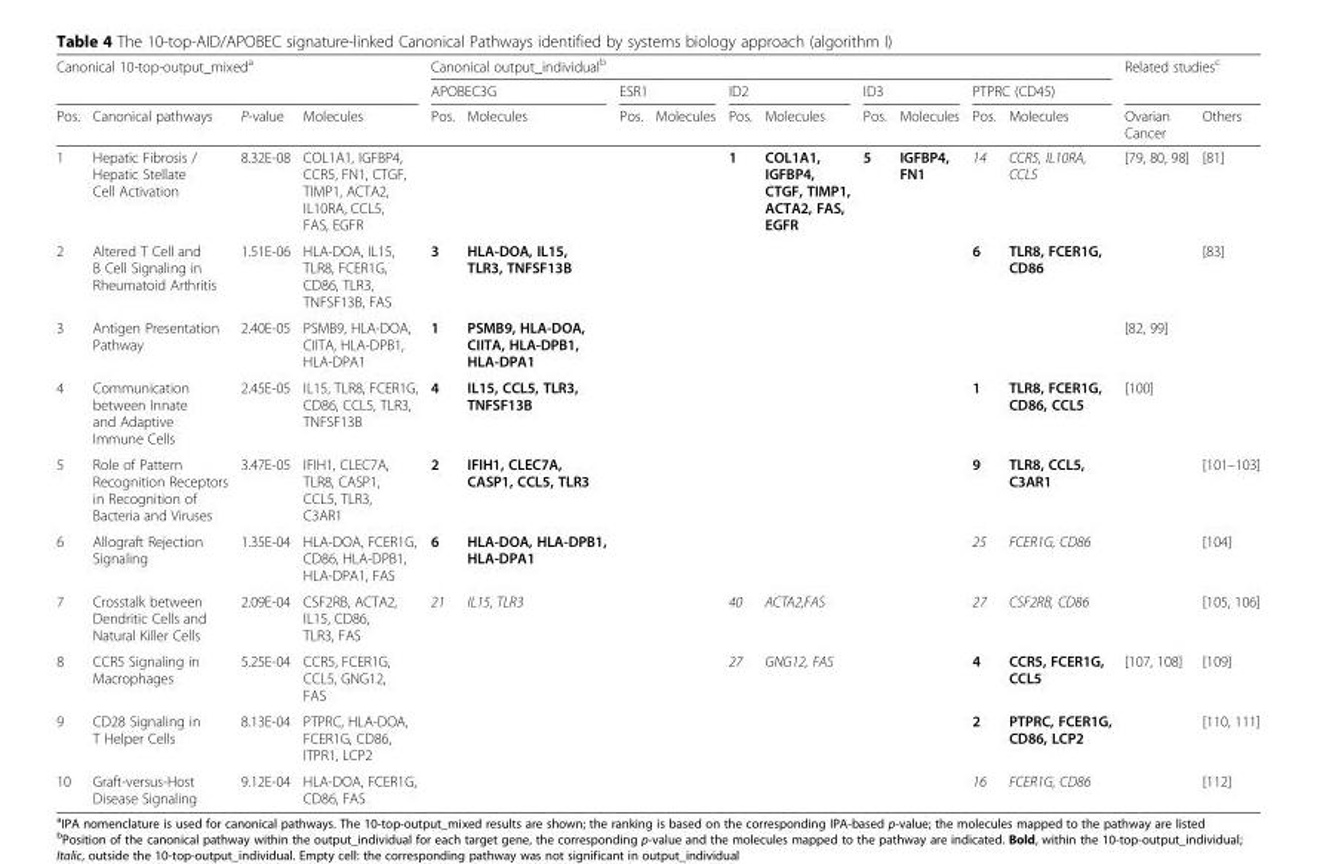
<table><thead><tr><td rowspan="2" colspan="4">Canonical 10-top-output_mixed<sup>a</sup></td><td colspan="10">Canonical output_individual<sup>b</sup></td><td rowspan="2" colspan="2">Related studies<sup>c</sup></td></tr><tr><td colspan="2">APOBEC3G</td><td colspan="2">ESR1</td><td colspan="2">ID2</td><td colspan="2">ID3</td><td colspan="2">PTPRC (CD45)</td></tr><tr><td>Pos.</td><td>Canonical pathways</td><td>P-value</td><td>Molecules</td><td>Pos.</td><td>Molecules</td><td>Pos.</td><td>Molecules</td><td>Pos.</td><td>Molecules</td><td>Pos.</td><td>Molecules</td><td>Pos.</td><td>Molecules</td><td>Ovarian Cancer</td><td>Others</td></tr></thead><tbody><tr><td>1</td><td>Hepatic Fibrosis / Hepatic Stellate Cell Activation</td><td>8.32E-08</td><td>COL1A1, IGFBP4, CCR5, FN1, CTGF, TIMP1, ACTA2, IL10RA, CCL5, FAS, EGFR</td><td></td><td></td><td></td><td></td><td>1</td><td>COL1A1, IGFBP4, CTGF, TIMP1, ACTA2, FAS, EGFR</td><td>5</td><td>IGFBP4, FN1</td><td>14</td><td>CCR5, IL10RA, CCL5</td><td>[79, 80, 98]</td><td>[81]</td></tr><tr><td>2</td><td>Altered T Cell and B Cell Signaling in Rheumatoid Arthritis</td><td>1.51E-06</td><td>HLA-DOA, IL15, TLR8, FCER1G, CD86, TLR3, TNFSF13B, FAS</td><td>3</td><td>HLA-DOA, IL15, TLR3, TNFSF13B</td><td></td><td></td><td></td><td></td><td></td><td></td><td>6</td><td>TLR8, FCER1G, CD86</td><td></td><td>[83]</td></tr><tr><td>3</td><td>Antigen Presentation Pathway</td><td>2.40E-05</td><td>PSMB9, HLA-DOA, CIITA, HLA-DPB1, HLA-DPA1</td><td>1</td><td>PSMB9, HLA-DOA, CIITA, HLA-DPB1, HLA-DPA1</td><td></td><td></td><td></td><td></td><td></td><td></td><td></td><td></td><td>[82, 99]</td><td></td></tr><tr><td>4</td><td>Communication between Innate and Adaptive Immune Cells</td><td>2.45E-05</td><td>IL15, TLR8, FCER1G, CD86, CCL5, TLR3, TNFSF13B</td><td>4</td><td>IL15, CCL5, TLR3, TNFSF13B</td><td></td><td></td><td></td><td></td><td></td><td></td><td>1</td><td>TLR8, FCER1G, CD86, CCL5</td><td>[100]</td><td></td></tr><tr><td>5</td><td>Role of Pattern Recognition Receptors in Recognition of Bacteria and Viruses</td><td>3.47E-05</td><td>IFIH1, CLEC7A, TLR8, CASP1, CCL5, TLR3, C3AR1</td><td>2</td><td>IFIH1, CLEC7A, CASP1, CCL5, TLR3</td><td></td><td></td><td></td><td></td><td></td><td></td><td>9</td><td>TLR8, CCL5, C3AR1</td><td></td><td>[101–103]</td></tr><tr><td>6</td><td>Allograft Rejection Signaling</td><td>1.35E-04</td><td>HLA-DOA, FCER1G, CD86, HLA-DPB1, HLA-DPA1, FAS</td><td>6</td><td>HLA-DOA, HLA-DPB1, HLA-DPA1</td><td></td><td></td><td></td><td></td><td></td><td></td><td>25</td><td>FCER1G, CD86</td><td></td><td>[104]</td></tr><tr><td>7</td><td>Crosstalk between Dendritic Cells and Natural Killer Cells</td><td>2.09E-04</td><td>CSF2RB, ACTA2, IL15, CD86, TLR3, FAS</td><td>21</td><td>IL15, TLR3</td><td></td><td></td><td>40</td><td>ACTA2,FAS</td><td></td><td></td><td>27</td><td>CSF2RB, CD86</td><td></td><td>[105, 106]</td></tr><tr><td>8</td><td>CCR5 Signaling in Macrophages</td><td>5.25E-04</td><td>CCR5, FCER1G, CCL5, GNG12, FAS</td><td></td><td></td><td></td><td></td><td>27</td><td>GNG12, FAS</td><td></td><td></td><td>4</td><td>CCR5, FCER1G, CCL5</td><td>[107, 108]</td><td>[109]</td></tr><tr><td>9</td><td>CD28 Signaling in T Helper Cells</td><td>8.13E-04</td><td>PTPRC, HLA-DOA, FCER1G, CD86, ITPR1, LCP2</td><td></td><td></td><td></td><td></td><td></td><td></td><td></td><td></td><td>2</td><td>PTPRC, FCER1G, CD86, LCP2</td><td></td><td>[110, 111]</td></tr><tr><td>10</td><td>Graft-versus-Host Disease Signaling</td><td>9.12E-04</td><td>HLA-DOA, FCER1G, CD86, FAS</td><td></td><td></td><td></td><td></td><td></td><td></td><td></td><td></td><td>16</td><td>FCER1G, CD86</td><td></td><td>[112]</td></tr></tbody></table>